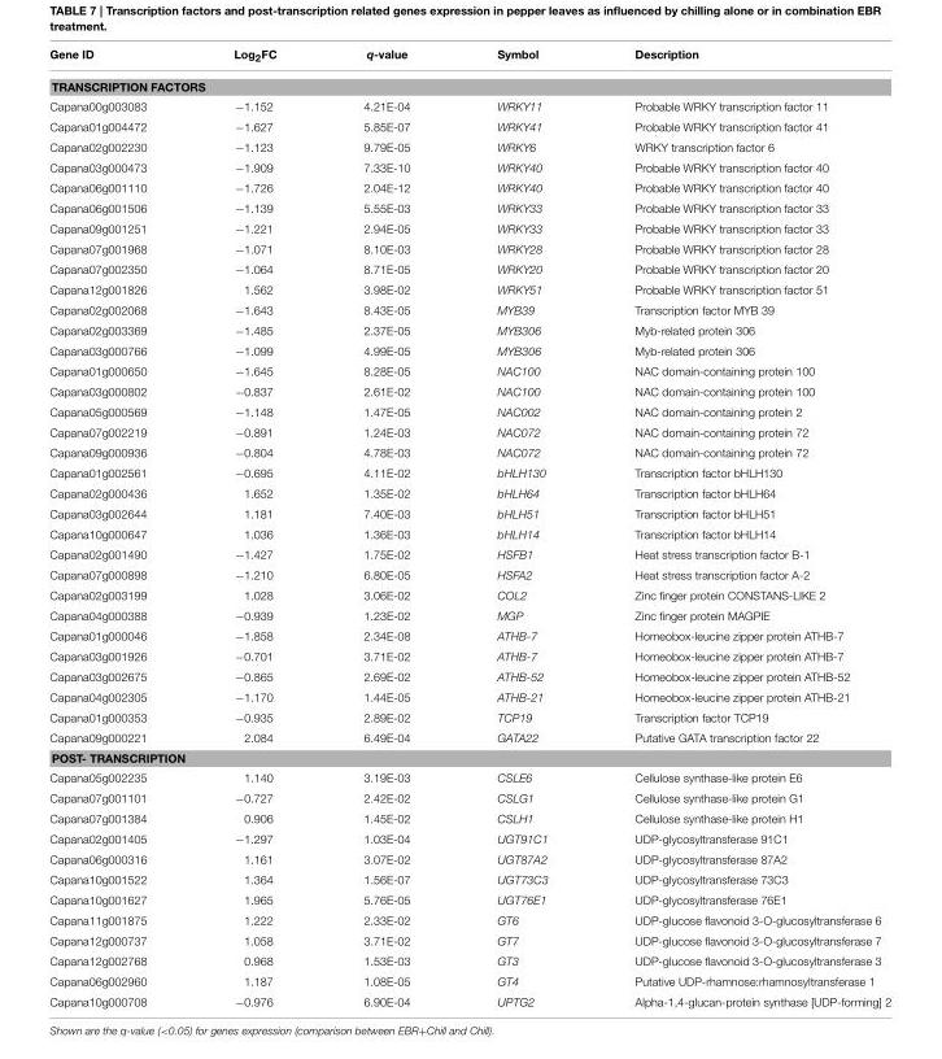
<table><thead><tr><td>Gene ID</td><td>Log<sub>2</sub>FC</td><td>q-value</td><td>Symbol</td><td>Description</td></tr></thead><tbody><tr><td colspan="5">TRANSCRIPTION FACTORS</td></tr><tr><td>Capana00g003083</td><td>−1.152</td><td>4.21E-04</td><td>WRKY11</td><td>Probable WRKY transcription factor 11</td></tr><tr><td>Capana01g004472</td><td>−1.627</td><td>5.85E-07</td><td>WRKY41</td><td>Probable WRKY transcription factor 41</td></tr><tr><td>Capana02g002230</td><td>−1.123</td><td>9.79E-05</td><td>WRKY6</td><td>WRKY transcription factor 6</td></tr><tr><td>Capana03g000473</td><td>−1.909</td><td>7.33E-10</td><td>WRKY40</td><td>Probable WRKY transcription factor 40</td></tr><tr><td>Capana06g001110</td><td>−1.726</td><td>2.04E-12</td><td>WRKY40</td><td>Probable WRKY transcription factor 40</td></tr><tr><td>Capana06g001506</td><td>−1.139</td><td>5.55E-03</td><td>WRKY33</td><td>Probable WRKY transcription factor 33</td></tr><tr><td>Capana09g001251</td><td>−1.221</td><td>2.94E-05</td><td>WRKY33</td><td>Probable WRKY transcription factor 33</td></tr><tr><td>Capana07g001968</td><td>−1.071</td><td>8.10E-03</td><td>WRKY28</td><td>Probable WRKY transcription factor 28</td></tr><tr><td>Capana07g002350</td><td>−1.064</td><td>8.71E-05</td><td>WRKY20</td><td>Probable WRKY transcription factor 20</td></tr><tr><td>Capana12g001826</td><td>1.562</td><td>3.98E-02</td><td>WRKY51</td><td>Probable WRKY transcription factor 51</td></tr><tr><td>Capana02g002068</td><td>−1.643</td><td>8.43E-05</td><td>MYB39</td><td>Transcription factor MYB 39</td></tr><tr><td>Capana02g003369</td><td>−1.485</td><td>2.37E-05</td><td>MYB306</td><td>Myb-related protein 306</td></tr><tr><td>Capana03g000766</td><td>−1.099</td><td>4.99E-05</td><td>MYB306</td><td>Myb-related protein 306</td></tr><tr><td>Capana01g000650</td><td>−1.645</td><td>8.28E-05</td><td>NAC100</td><td>NAC domain-containing protein 100</td></tr><tr><td>Capana03g000802</td><td>−0.837</td><td>2.61E-02</td><td>NAC100</td><td>NAC domain-containing protein 100</td></tr><tr><td>Capana05g000569</td><td>−1.148</td><td>1.47E-05</td><td>NAC002</td><td>NAC domain-containing protein 2</td></tr><tr><td>Capana07g002219</td><td>−0.891</td><td>1.24E-03</td><td>NAC072</td><td>NAC domain-containing protein 72</td></tr><tr><td>Capana09g000936</td><td>−0.804</td><td>4.78E-03</td><td>NAC072</td><td>NAC domain-containing protein 72</td></tr><tr><td>Capana01g002561</td><td>−0.695</td><td>4.11E-02</td><td>bHLH130</td><td>Transcription factor bHLH130</td></tr><tr><td>Capana02g000436</td><td>1.652</td><td>1.35E-02</td><td>bHLH64</td><td>Transcription factor bHLH64</td></tr><tr><td>Capana03g002644</td><td>1.181</td><td>7.40E-03</td><td>bHLH51</td><td>Transcription factor bHLH51</td></tr><tr><td>Capana10g000647</td><td>1.036</td><td>1.36E-03</td><td>bHLH14</td><td>Transcription factor bHLH14</td></tr><tr><td>Capana02g001490</td><td>−1.427</td><td>1.75E-02</td><td>HSFB1</td><td>Heat stress transcription factor B-1</td></tr><tr><td>Capana07g000898</td><td>−1.210</td><td>6.80E-05</td><td>HSFA2</td><td>Heat stress transcription factor A-2</td></tr><tr><td>Capana02g003199</td><td>1.028</td><td>3.06E-02</td><td>COL2</td><td>Zinc finger protein CONSTANS-LIKE 2</td></tr><tr><td>Capana04g000388</td><td>−0.939</td><td>1.23E-02</td><td>MGP</td><td>Zinc finger protein MAGPIE</td></tr><tr><td>Capana01g000046</td><td>−1.858</td><td>2.34E-08</td><td>ATHB-7</td><td>Homeobox-leucine zipper protein ATHB-7</td></tr><tr><td>Capana03g001926</td><td>−0.701</td><td>3.71E-02</td><td>ATHB-7</td><td>Homeobox-leucine zipper protein ATHB-7</td></tr><tr><td>Capana03g002675</td><td>−0.865</td><td>2.69E-02</td><td>ATHB-52</td><td>Homeobox-leucine zipper protein ATHB-52</td></tr><tr><td>Capana04g002305</td><td>−1.170</td><td>1.44E-05</td><td>ATHB-21</td><td>Homeobox-leucine zipper protein ATHB-21</td></tr><tr><td>Capana01g000353</td><td>−0.935</td><td>2.89E-02</td><td>TCP19</td><td>Transcription factor TCP19</td></tr><tr><td>Capana09g000221</td><td>2.084</td><td>6.49E-04</td><td>GATA22</td><td>Putative GATA transcription factor 22</td></tr><tr><td colspan="5">POST- TRANSCRIPTION</td></tr><tr><td>Capana05g002235</td><td>1.140</td><td>3.19E-03</td><td>CSLE6</td><td>Cellulose synthase-like protein E6</td></tr><tr><td>Capana07g001101</td><td>−0.727</td><td>2.42E-02</td><td>CSLG1</td><td>Cellulose synthase-like protein G1</td></tr><tr><td>Capana07g001384</td><td>0.906</td><td>1.45E-02</td><td>CSLH1</td><td>Cellulose synthase-like protein H1</td></tr><tr><td>Capana02g001405</td><td>−1.297</td><td>1.03E-04</td><td>UGT91C1</td><td>UDP-glycosyltransferase 91C1</td></tr><tr><td>Capana06g000316</td><td>1.161</td><td>3.07E-02</td><td>UGT87A2</td><td>UDP-glycosyltransferase 87A2</td></tr><tr><td>Capana10g001522</td><td>1.364</td><td>1.56E-07</td><td>UGT73C3</td><td>UDP-glycosyltransferase 73C3</td></tr><tr><td>Capana10g001627</td><td>1.965</td><td>5.76E-05</td><td>UGT76E1</td><td>UDP-glycosyltransferase 76E1</td></tr><tr><td>Capana11g001875</td><td>1.222</td><td>2.33E-02</td><td>GT6</td><td>UDP-glucose flavonoid 3-O-glucosyltransferase 6</td></tr><tr><td>Capana12g000737</td><td>1.058</td><td>3.71E-02</td><td>GT7</td><td>UDP-glucose flavonoid 3-O-glucosyltransferase 7</td></tr><tr><td>Capana12g002768</td><td>0.968</td><td>1.53E-03</td><td>GT3</td><td>UDP-glucose flavonoid 3-O-glucosyltransferase 3</td></tr><tr><td>Capana06g002960</td><td>1.187</td><td>1.08E-05</td><td>GT4</td><td>Putative UDP-rhamnose:rhamnosyltransferase 1</td></tr><tr><td>Capana10g000708</td><td>−0.976</td><td>6.90E-04</td><td>UPTG2</td><td>Alpha-1,4-glucan-protein synthase [UDP-forming] 2</td></tr></tbody></table>